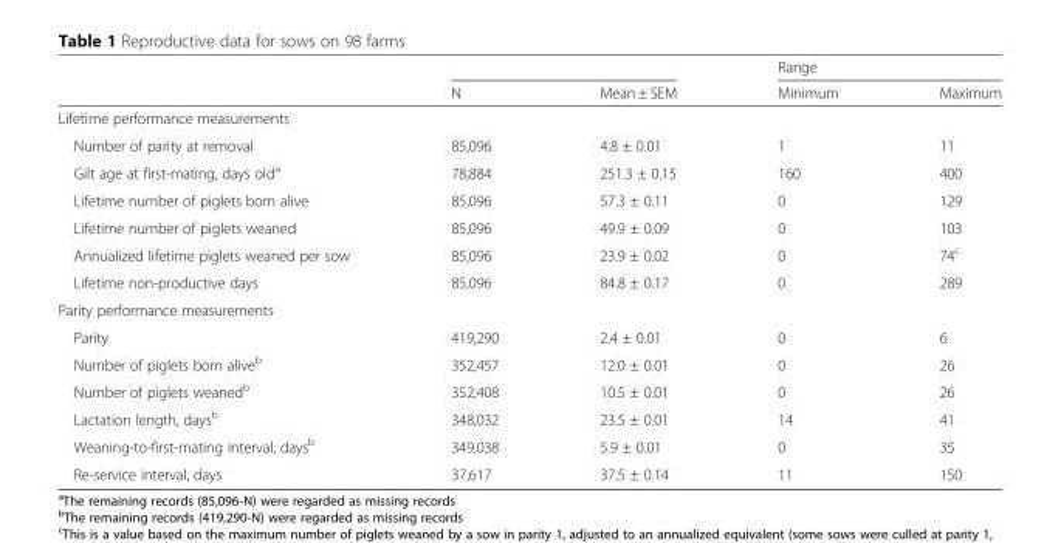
<table><thead><tr><td rowspan="2"></td><td rowspan="2">N</td><td rowspan="2">Mean ± SEM</td><td colspan="2">Range</td></tr><tr><td>Minimum</td><td>Maximum</td></tr></thead><tbody><tr><td colspan="5">Lifetime performance measurements</td></tr><tr><td>Number of parity at removal</td><td>85,096</td><td>4.8 ± 0.01</td><td>1</td><td>11</td></tr><tr><td>Gilt age at first-mating, days old<sup>a</sup></td><td>78,884</td><td>251.3 ± 0.15</td><td>160</td><td>400</td></tr><tr><td>Lifetime number of piglets born alive</td><td>85,096</td><td>57.3 ± 0.11</td><td>0</td><td>129</td></tr><tr><td>Lifetime number of piglets weaned</td><td>85,096</td><td>49.9 ± 0.09</td><td>0</td><td>103</td></tr><tr><td>Annualized lifetime piglets weaned per sow</td><td>85,096</td><td>23.9 ± 0.02</td><td>0</td><td>74<sup>c</sup></td></tr><tr><td>Lifetime non-productive days</td><td>85,096</td><td>84.8 ± 0.17</td><td>0</td><td>289</td></tr><tr><td colspan="5">Parity performance measurements</td></tr><tr><td>Parity</td><td>419,290</td><td>2.4 ± 0.01</td><td>0</td><td>6</td></tr><tr><td>Number of piglets born alive<sup>b</sup></td><td>352,457</td><td>12.0 ± 0.01</td><td>0</td><td>26</td></tr><tr><td>Number of piglets weaned<sup>b</sup></td><td>352,408</td><td>10.5 ± 0.01</td><td>0</td><td>26</td></tr><tr><td>Lactation length, days<sup>b</sup></td><td>348,032</td><td>23.5 ± 0.01</td><td>14</td><td>41</td></tr><tr><td>Weaning-to-first-mating interval, days<sup>b</sup></td><td>349,038</td><td>5.9 ± 0.01</td><td>0</td><td>35</td></tr><tr><td>Re-service interval, days</td><td>37,617</td><td>37.5 ± 0.14</td><td>11</td><td>150</td></tr></tbody></table>